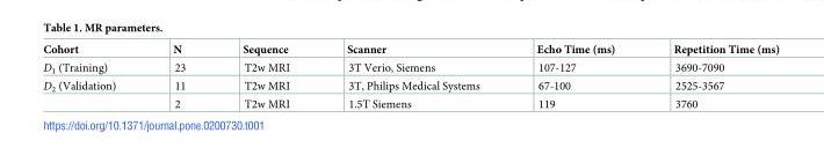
<table><thead><tr><td>Cohort</td><td>N</td><td>Sequence</td><td>Scanner</td><td>Echo Time (ms)</td><td>Repetition Time (ms)</td></tr></thead><tbody><tr><td>D<sub>1</sub> (Training)</td><td>23</td><td>T2w MRI</td><td>3T Verio, Siemens</td><td>107-127</td><td>3690-7090</td></tr><tr><td rowspan="2">D<sub>2</sub> (Validation)</td><td>11</td><td>T2w MRI</td><td>3T, Philips Medical Systems</td><td>67-100</td><td>2525-3567</td></tr><tr><td>2</td><td>T2w MRI</td><td>1.5T Siemens</td><td>119</td><td>3760</td></tr></tbody></table>